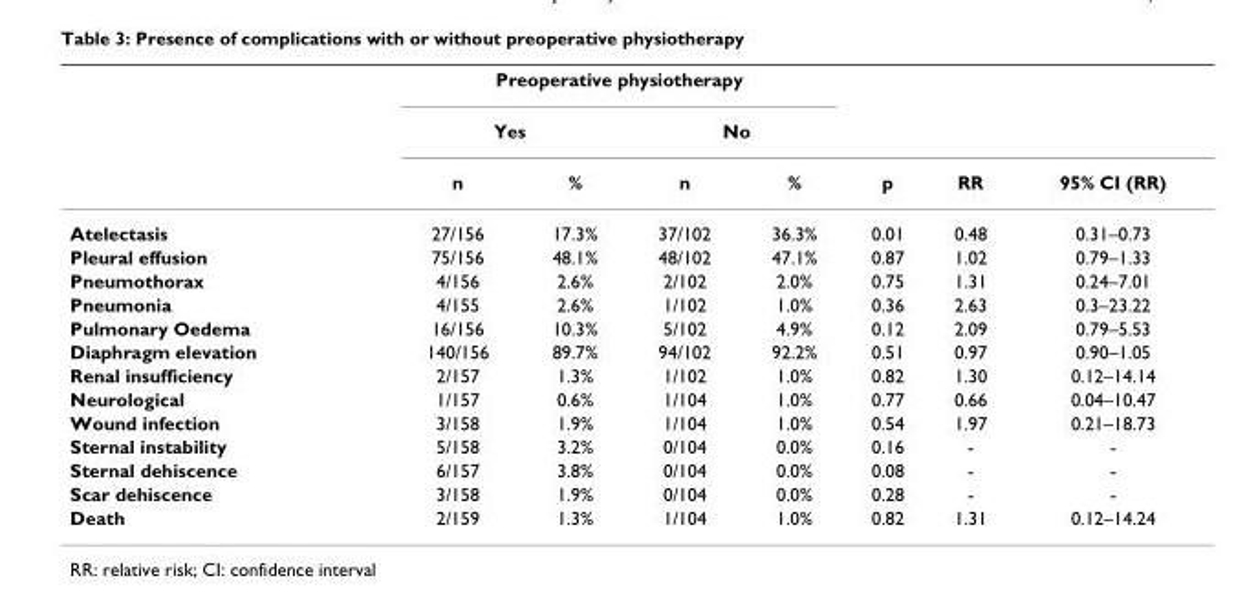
<table><thead><tr><td rowspan="3"></td><td colspan="4">Preoperative physiotherapy</td><td rowspan="3">p</td><td rowspan="3">RR</td><td rowspan="3">95% CI (RR)</td></tr><tr><td colspan="2">Yes</td><td colspan="2">No</td></tr><tr><td>n</td><td>%</td><td>n</td><td>%</td></tr></thead><tbody><tr><td>Atelectasis</td><td>27/156</td><td>17.3%</td><td>37/102</td><td>36.3%</td><td>0.01</td><td>0.48</td><td>0.31–0.73</td></tr><tr><td>Pleural effusion</td><td>75/156</td><td>48.1%</td><td>48/102</td><td>47.1%</td><td>0.87</td><td>1.02</td><td>0.79–1.33</td></tr><tr><td>Pneumothorax</td><td>4/156</td><td>2.6%</td><td>2/102</td><td>2.0%</td><td>0.75</td><td>1.31</td><td>0.24–7.01</td></tr><tr><td>Pneumonia</td><td>4/155</td><td>2.6%</td><td>1/102</td><td>1.0%</td><td>0.36</td><td>2.63</td><td>0.3–23.22</td></tr><tr><td>Pulmonary Oedema</td><td>16/156</td><td>10.3%</td><td>5/102</td><td>4.9%</td><td>0.12</td><td>2.09</td><td>0.79–5.53</td></tr><tr><td>Diaphragm elevation</td><td>140/156</td><td>89.7%</td><td>94/102</td><td>92.2%</td><td>0.51</td><td>0.97</td><td>0.90–1.05</td></tr><tr><td>Renal insufficiency</td><td>2/157</td><td>1.3%</td><td>1/102</td><td>1.0%</td><td>0.82</td><td>1.30</td><td>0.12–14.14</td></tr><tr><td>Neurological</td><td>1/157</td><td>0.6%</td><td>1/104</td><td>1.0%</td><td>0.77</td><td>0.66</td><td>0.04–10.47</td></tr><tr><td>Wound infection</td><td>3/158</td><td>1.9%</td><td>1/104</td><td>1.0%</td><td>0.54</td><td>1.97</td><td>0.21–18.73</td></tr><tr><td>Sternal instability</td><td>5/158</td><td>3.2%</td><td>0/104</td><td>0.0%</td><td>0.16</td><td>-</td><td>-</td></tr><tr><td>Sternal dehiscence</td><td>6/157</td><td>3.8%</td><td>0/104</td><td>0.0%</td><td>0.08</td><td>-</td><td>-</td></tr><tr><td>Scar dehiscence</td><td>3/158</td><td>1.9%</td><td>0/104</td><td>0.0%</td><td>0.28</td><td>-</td><td>-</td></tr><tr><td>Death</td><td>2/159</td><td>1.3%</td><td>1/104</td><td>1.0%</td><td>0.82</td><td>1.31</td><td>0.12–14.24</td></tr></tbody></table>